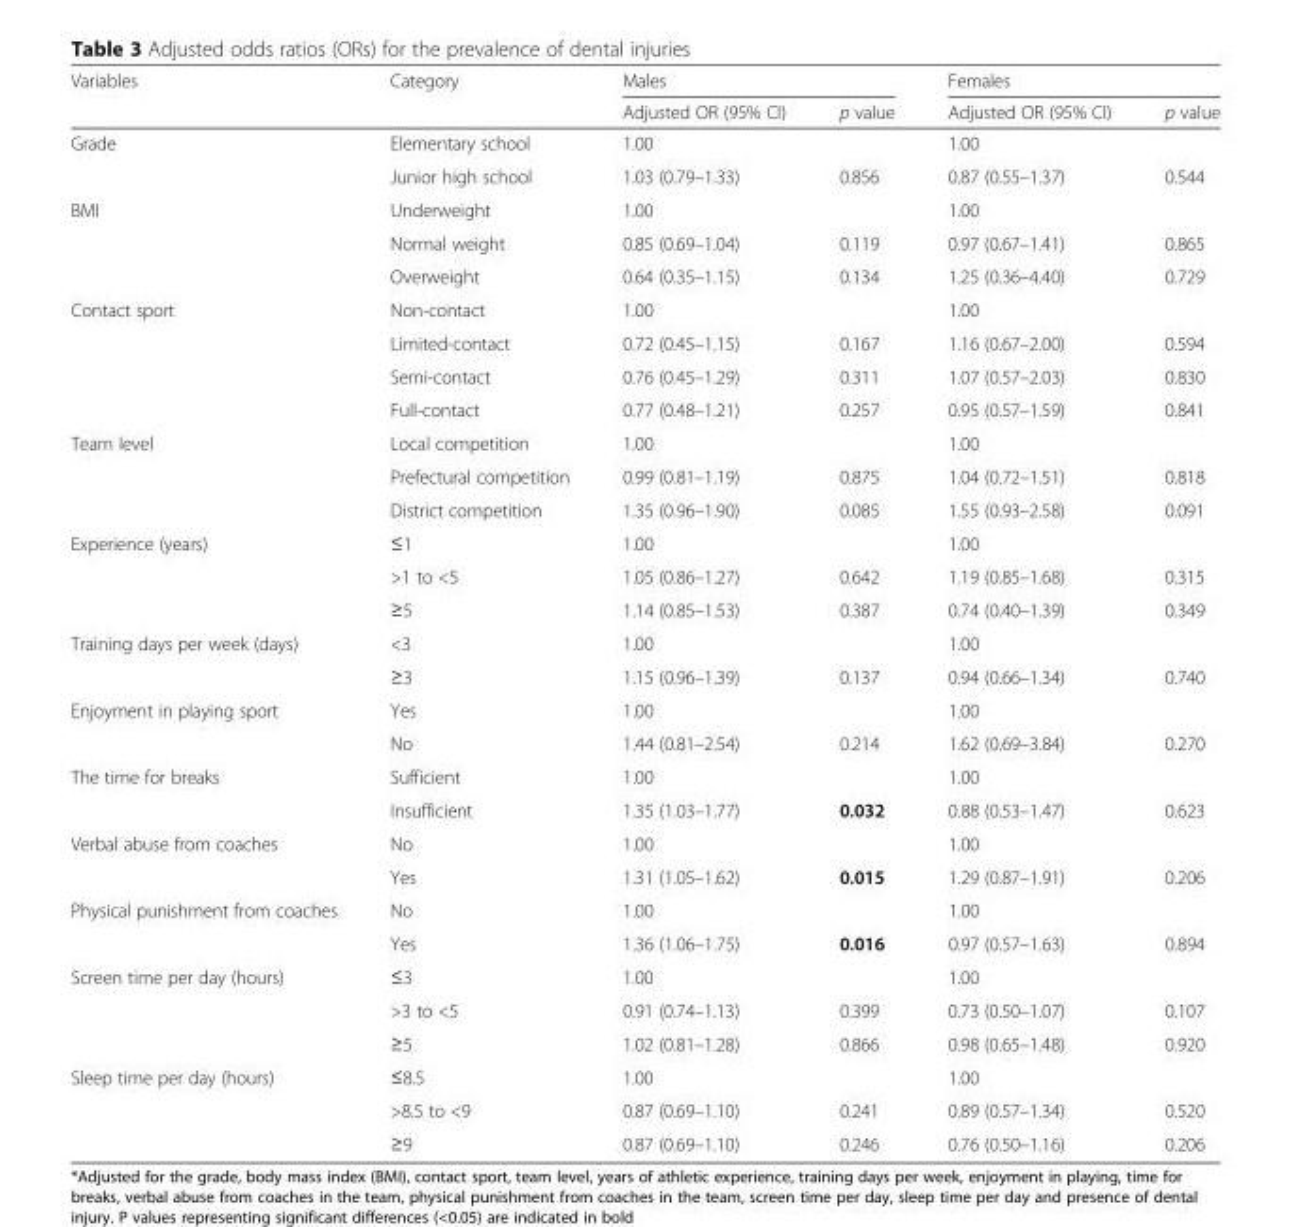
<table><thead><tr><td rowspan="2">Variables</td><td rowspan="2">Category</td><td colspan="2">Males</td><td colspan="2">Females</td></tr><tr><td>Adjusted OR (95% CI)</td><td>p value</td><td>Adjusted OR (95% CI)</td><td>p value</td></tr></thead><tbody><tr><td rowspan="2">Grade</td><td>Elementary school</td><td>1.00</td><td></td><td>1.00</td><td></td></tr><tr><td>Junior high school</td><td>1.03 (0.79–1.33)</td><td>0.856</td><td>0.87 (0.55–1.37)</td><td>0.544</td></tr><tr><td rowspan="3">BMI</td><td>Underweight</td><td>1.00</td><td></td><td>1.00</td><td></td></tr><tr><td>Normal weight</td><td>0.85 (0.69–1.04)</td><td>0.119</td><td>0.97 (0.67–1.41)</td><td>0.865</td></tr><tr><td>Overweight</td><td>0.64 (0.35–1.15)</td><td>0.134</td><td>1.25 (0.36–4.40)</td><td>0.729</td></tr><tr><td rowspan="4">Contact sport</td><td>Non-contact</td><td>1.00</td><td></td><td>1.00</td><td></td></tr><tr><td>Limited-contact</td><td>0.72 (0.45–1.15)</td><td>0.167</td><td>1.16 (0.67–2.00)</td><td>0.594</td></tr><tr><td>Semi-contact</td><td>0.76 (0.45–1.29)</td><td>0.311</td><td>1.07 (0.57–2.03)</td><td>0.830</td></tr><tr><td>Full-contact</td><td>0.77 (0.48–1.21)</td><td>0.257</td><td>0.95 (0.57–1.59)</td><td>0.841</td></tr><tr><td rowspan="3">Team level</td><td>Local competition</td><td>1.00</td><td></td><td>1.00</td><td></td></tr><tr><td>Prefectural competition</td><td>0.99 (0.81–1.19)</td><td>0.875</td><td>1.04 (0.72–1.51)</td><td>0.818</td></tr><tr><td>District competition</td><td>1.35 (0.96–1.90)</td><td>0.085</td><td>1.55 (0.93–2.58)</td><td>0.091</td></tr><tr><td rowspan="3">Experience (years)</td><td>≤1</td><td>1.00</td><td></td><td>1.00</td><td></td></tr><tr><td>&gt;1 to &lt;5</td><td>1.05 (0.86–1.27)</td><td>0.642</td><td>1.19 (0.85–1.68)</td><td>0.315</td></tr><tr><td>≥5</td><td>1.14 (0.85–1.53)</td><td>0.387</td><td>0.74 (0.40–1.39)</td><td>0.349</td></tr><tr><td rowspan="2">Training days per week (days)</td><td>&lt;3</td><td>1.00</td><td></td><td>1.00</td><td></td></tr><tr><td>≥3</td><td>1.15 (0.96–1.39)</td><td>0.137</td><td>0.94 (0.66–1.34)</td><td>0.740</td></tr><tr><td rowspan="2">Enjoyment in playing sport</td><td>Yes</td><td>1.00</td><td></td><td>1.00</td><td></td></tr><tr><td>No</td><td>1.44 (0.81–2.54)</td><td>0.214</td><td>1.62 (0.69–3.84)</td><td>0.270</td></tr><tr><td rowspan="2">The time for breaks</td><td>Sufficient</td><td>1.00</td><td></td><td>1.00</td><td></td></tr><tr><td>Insufficient</td><td>1.35 (1.03–1.77)</td><td>0.032</td><td>0.88 (0.53–1.47)</td><td>0.623</td></tr><tr><td rowspan="2">Verbal abuse from coaches</td><td>No</td><td>1.00</td><td></td><td>1.00</td><td></td></tr><tr><td>Yes</td><td>1.31 (1.05–1.62)</td><td>0.015</td><td>1.29 (0.87–1.91)</td><td>0.206</td></tr><tr><td rowspan="2">Physical punishment from coaches</td><td>No</td><td>1.00</td><td></td><td>1.00</td><td></td></tr><tr><td>Yes</td><td>1.36 (1.06–1.75)</td><td>0.016</td><td>0.97 (0.57–1.63)</td><td>0.894</td></tr><tr><td rowspan="3">Screen time per day (hours)</td><td>≤3</td><td>1.00</td><td></td><td>1.00</td><td></td></tr><tr><td>&gt;3 to &lt;5</td><td>0.91 (0.74–1.13)</td><td>0.399</td><td>0.73 (0.50–1.07)</td><td>0.107</td></tr><tr><td>≥5</td><td>1.02 (0.81–1.28)</td><td>0.866</td><td>0.98 (0.65–1.48)</td><td>0.920</td></tr><tr><td rowspan="3">Sleep time per day (hours)</td><td>≤8.5</td><td>1.00</td><td></td><td>1.00</td><td></td></tr><tr><td>&gt;8.5 to &lt;9</td><td>0.87 (0.69–1.10)</td><td>0.241</td><td>0.89 (0.57–1.34)</td><td>0.520</td></tr><tr><td>≥9</td><td>0.87 (0.69–1.10)</td><td>0.246</td><td>0.76 (0.50–1.16)</td><td>0.206</td></tr></tbody></table>